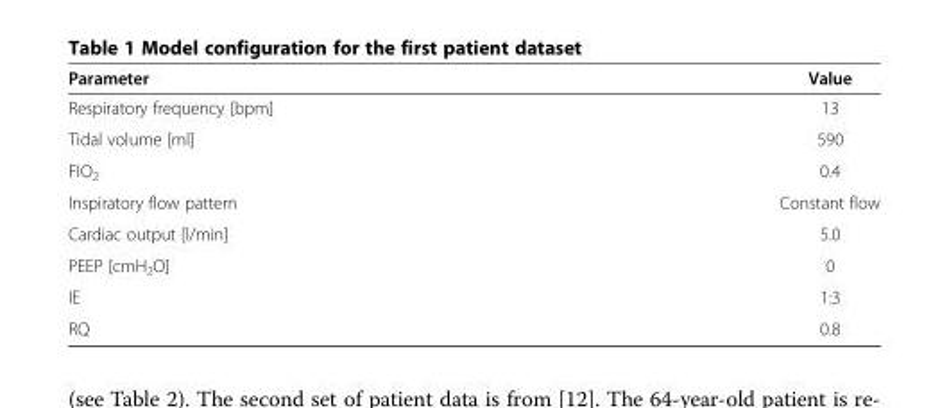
<table><thead><tr><td>Parameter</td><td>Value</td></tr></thead><tbody><tr><td>Respiratory frequency [bpm]</td><td>13</td></tr><tr><td>Tidal volume [ml]</td><td>590</td></tr><tr><td>FIO<sub>2</sub></td><td>0.4</td></tr><tr><td>Inspiratory flow pattern</td><td>Constant flow</td></tr><tr><td>Cardiac output [l/min]</td><td>5.0</td></tr><tr><td>PEEP [cmH<sub>2</sub>O]</td><td>0</td></tr><tr><td>IE</td><td>1:3</td></tr><tr><td>RQ</td><td>0.8</td></tr></tbody></table>